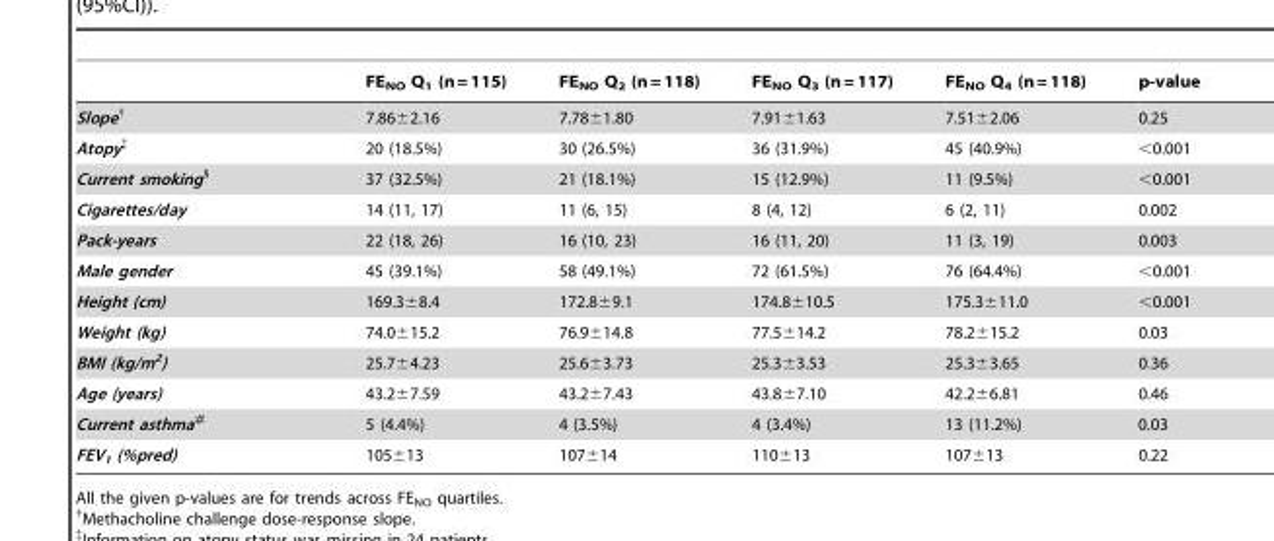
<table><thead><tr><td></td><td>FE<sub>NO</sub> Q<sub>1</sub> (n = 115)</td><td>FE<sub>NO</sub> Q<sub>2</sub> (n = 118)</td><td>FE<sub>NO</sub> Q<sub>3</sub> (n = 117)</td><td>FE<sub>NO</sub> Q<sub>4</sub> (n = 118)</td><td>p-value</td></tr></thead><tbody><tr><td>Slope†</td><td>7.86±2.16</td><td>7.78±1.80</td><td>7.91±1.63</td><td>7.51±2.06</td><td>0.25</td></tr><tr><td>Atopy‡</td><td>20 (18.5%)</td><td>30 (26.5%)</td><td>36 (31.9%)</td><td>45 (40.9%)</td><td>&lt;0.001</td></tr><tr><td>Current smoking§</td><td>37 (32.5%)</td><td>21 (18.1%)</td><td>15 (12.9%)</td><td>11 (9.5%)</td><td>&lt;0.001</td></tr><tr><td>Cigarettes/day</td><td>14 (11, 17)</td><td>11 (6, 15)</td><td>8 (4, 12)</td><td>6 (2, 11)</td><td>0.002</td></tr><tr><td>Pack-years</td><td>22 (18, 26)</td><td>16 (10, 23)</td><td>16 (11, 20)</td><td>11 (3, 19)</td><td>0.003</td></tr><tr><td>Male gender</td><td>45 (39.1%)</td><td>58 (49.1%)</td><td>72 (61.5%)</td><td>76 (64.4%)</td><td>&lt;0.001</td></tr><tr><td>Height (cm)</td><td>169.3±8.4</td><td>172.8±9.1</td><td>174.8±10.5</td><td>175.3±11.0</td><td>&lt;0.001</td></tr><tr><td>Weight (kg)</td><td>74.0±15.2</td><td>76.9±14.8</td><td>77.5±14.2</td><td>78.2±15.2</td><td>0.03</td></tr><tr><td>BMI (kg/m<sup>2</sup>)</td><td>25.7±4.23</td><td>25.6±3.73</td><td>25.3±3.53</td><td>25.3±3.65</td><td>0.36</td></tr><tr><td>Age (years)</td><td>43.2±7.59</td><td>43.2±7.43</td><td>43.8±7.10</td><td>42.2±6.81</td><td>0.46</td></tr><tr><td>Current asthma#</td><td>5 (4.4%)</td><td>4 (3.5%)</td><td>4 (3.4%)</td><td>13 (11.2%)</td><td>0.03</td></tr><tr><td>FEV<sub>1</sub> (%pred)</td><td>105±13</td><td>107±14</td><td>110±13</td><td>107±13</td><td>0.22</td></tr></tbody></table>